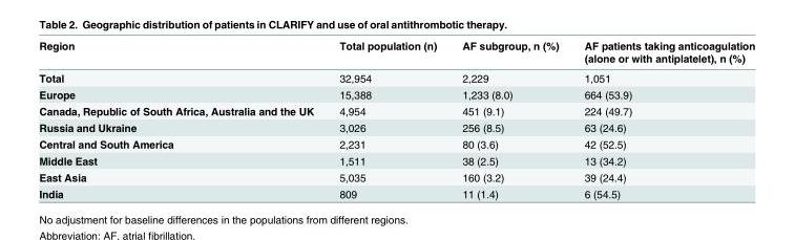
<table><thead><tr><td>Region</td><td>Total population (n)</td><td>AF subgroup, n (%)</td><td>AF patients taking anticoagulation (alone or with antiplatelet), n (%)</td></tr></thead><tbody><tr><td>Total</td><td>32,954</td><td>2,229</td><td>1,051</td></tr><tr><td>Europe</td><td>15,388</td><td>1,233 (8.0)</td><td>664 (53.9)</td></tr><tr><td>Canada, Republic of South Africa, Australia and the UK</td><td>4,954</td><td>451 (9.1)</td><td>224 (49.7)</td></tr><tr><td>Russia and Ukraine</td><td>3,026</td><td>256 (8.5)</td><td>63 (24.6)</td></tr><tr><td>Central and South America</td><td>2,231</td><td>80 (3.6)</td><td>42 (52.5)</td></tr><tr><td>Middle East</td><td>1,511</td><td>38 (2.5)</td><td>13 (34.2)</td></tr><tr><td>East Asia</td><td>5,035</td><td>160 (3.2)</td><td>39 (24.4)</td></tr><tr><td>India</td><td>809</td><td>11 (1.4)</td><td>6 (54.5)</td></tr></tbody></table>